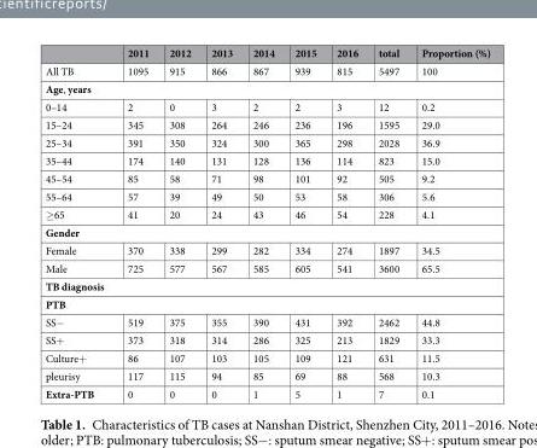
<table><thead><tr><td></td><td>2011</td><td>2012</td><td>2013</td><td>2014</td><td>2015</td><td>2016</td><td>total</td><td>Proportion (%)</td></tr></thead><tbody><tr><td>All TB</td><td>1095</td><td>915</td><td>866</td><td>867</td><td>939</td><td>815</td><td>5497</td><td>100</td></tr><tr><td colspan="9">Age, years</td></tr><tr><td>0–14</td><td>2</td><td>0</td><td>3</td><td>2</td><td>2</td><td>3</td><td>12</td><td>0.2</td></tr><tr><td>15–24</td><td>345</td><td>308</td><td>264</td><td>246</td><td>236</td><td>196</td><td>1595</td><td>29.0</td></tr><tr><td>25–34</td><td>391</td><td>350</td><td>324</td><td>300</td><td>365</td><td>298</td><td>2028</td><td>36.9</td></tr><tr><td>35–44</td><td>174</td><td>140</td><td>131</td><td>128</td><td>136</td><td>114</td><td>823</td><td>15.0</td></tr><tr><td>45–54</td><td>85</td><td>58</td><td>71</td><td>98</td><td>101</td><td>92</td><td>505</td><td>9.2</td></tr><tr><td>55–64</td><td>57</td><td>39</td><td>49</td><td>50</td><td>53</td><td>58</td><td>306</td><td>5.6</td></tr><tr><td>≥65</td><td>41</td><td>20</td><td>24</td><td>43</td><td>46</td><td>54</td><td>228</td><td>4.1</td></tr><tr><td colspan="9">Gender</td></tr><tr><td>Female</td><td>370</td><td>338</td><td>299</td><td>282</td><td>334</td><td>274</td><td>1897</td><td>34.5</td></tr><tr><td>Male</td><td>725</td><td>577</td><td>567</td><td>585</td><td>605</td><td>541</td><td>3600</td><td>65.5</td></tr><tr><td colspan="9">TB diagnosis</td></tr><tr><td colspan="9">PTB</td></tr><tr><td>SS−</td><td>519</td><td>375</td><td>355</td><td>390</td><td>431</td><td>392</td><td>2462</td><td>44.8</td></tr><tr><td>SS+</td><td>373</td><td>318</td><td>314</td><td>286</td><td>325</td><td>213</td><td>1829</td><td>33.3</td></tr><tr><td>Culture+</td><td>86</td><td>107</td><td>103</td><td>105</td><td>109</td><td>121</td><td>631</td><td>11.5</td></tr><tr><td>pleurisy</td><td>117</td><td>115</td><td>94</td><td>85</td><td>69</td><td>88</td><td>568</td><td>10.3</td></tr><tr><td>Extra-PTB</td><td>0</td><td>0</td><td>0</td><td>1</td><td>5</td><td>1</td><td>7</td><td>0.1</td></tr></tbody></table>